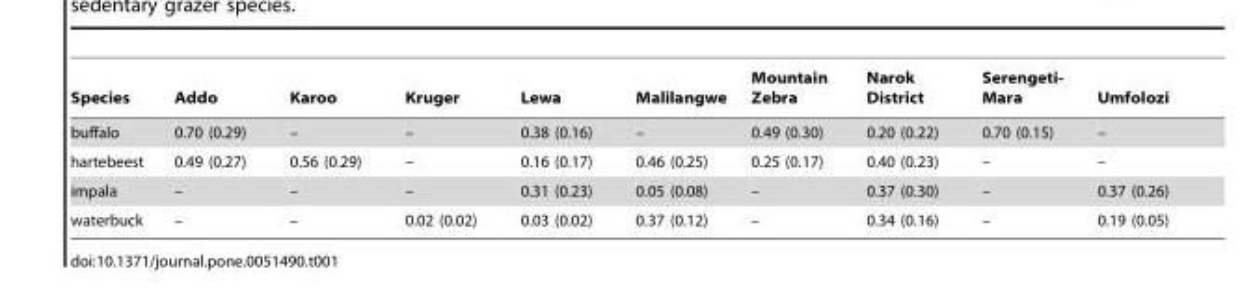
<table><thead><tr><td>Species</td><td>Addo</td><td>Karoo</td><td>Kruger</td><td>Lewa</td><td>Malilangwe</td><td>Mountain Zebra</td><td>Narok District</td><td>Serengeti- Mara</td><td>Umfolozi</td></tr></thead><tbody><tr><td>buffalo</td><td>0.70 (0.29)</td><td>–</td><td>–</td><td>0.38 (0.16)</td><td>–</td><td>0.49 (0.30)</td><td>0.20 (0.22)</td><td>0.70 (0.15)</td><td>–</td></tr><tr><td>hartebeest</td><td>0.49 (0.27)</td><td>0.56 (0.29)</td><td>–</td><td>0.16 (0.17)</td><td>0.46 (0.25)</td><td>0.25 (0.17)</td><td>0.40 (0.23)</td><td>–</td><td>–</td></tr><tr><td>impala</td><td>–</td><td>–</td><td>–</td><td>0.31 (0.23)</td><td>0.05 (0.08)</td><td>–</td><td>0.37 (0.30)</td><td>–</td><td>0.37 (0.26)</td></tr><tr><td>waterbuck</td><td>–</td><td>–</td><td>0.02 (0.02)</td><td>0.03 (0.02)</td><td>0.37 (0.12)</td><td>–</td><td>0.34 (0.16)</td><td>–</td><td>0.19 (0.05)</td></tr></tbody></table>